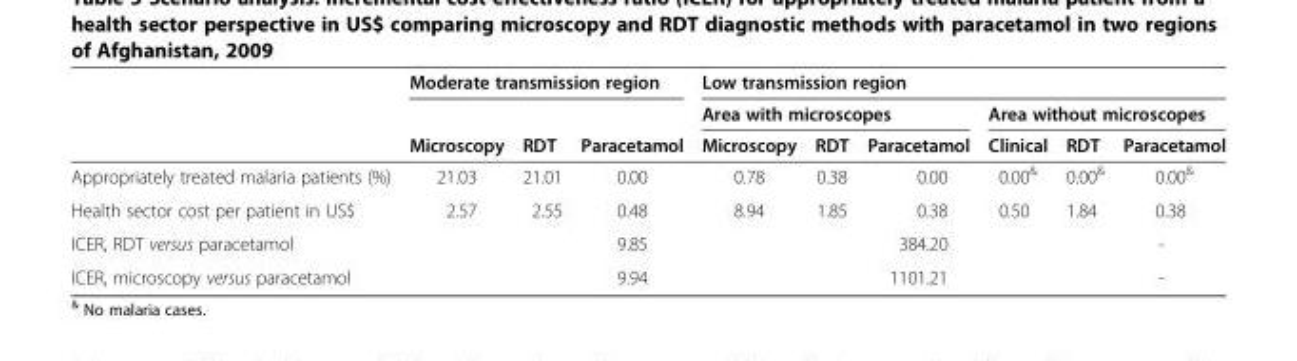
<table><thead><tr><td rowspan="3"></td><td colspan="3">Moderate transmission region</td><td colspan="6">Low transmission region</td></tr><tr><td rowspan="2">Microscopy</td><td rowspan="2">RDT</td><td rowspan="2">Paracetamol</td><td colspan="3">Area with microscopes</td><td colspan="3">Area without microscopes</td></tr><tr><td>Microscopy</td><td>RDT</td><td>Paracetamol</td><td>Clinical</td><td>RDT</td><td>Paracetamol</td></tr></thead><tbody><tr><td>Appropriately treated malaria patients (%)</td><td>21.03</td><td>21.01</td><td>0.00</td><td>0.78</td><td>0.38</td><td>0.00</td><td>0.00<sup>&amp;</sup></td><td>0.00<sup>&amp;</sup></td><td>0.00<sup>&amp;</sup></td></tr><tr><td>Health sector cost per patient in US$</td><td>2.57</td><td>2.55</td><td>0.48</td><td>8.94</td><td>1.85</td><td>0.38</td><td>0.50</td><td>1.84</td><td>0.38</td></tr><tr><td>ICER, RDT versus paracetamol</td><td></td><td></td><td>9.85</td><td></td><td></td><td>384.20</td><td></td><td></td><td>-</td></tr><tr><td>ICER, microscopy versus paracetamol</td><td></td><td></td><td>9.94</td><td></td><td></td><td>1101.21</td><td></td><td></td><td>-</td></tr></tbody></table>